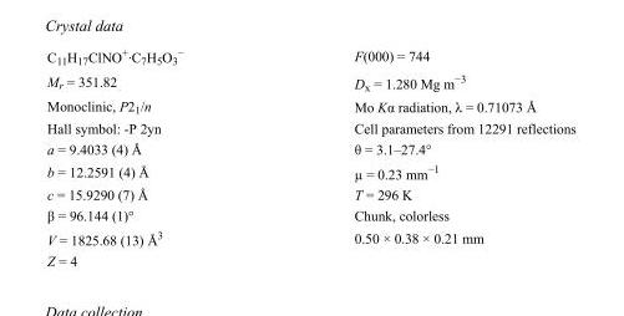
<table><tbody><tr><td>C<sub>11</sub>H<sub>17</sub>ClNO<sup>+</sup>·C<sub>7</sub>H<sub>5</sub>O<sub>3</sub> <sup>−</sup></td><td>F(000) = 744</td></tr><tr><td>M<sub>r</sub> = 351.82</td><td>D<sub>x</sub> = 1.280 Mg m<sup>−3</sup></td></tr><tr><td>Monoclinic, P2<sub>1</sub>/n</td><td>Mo Kα radiation, λ = 0.71073 Å</td></tr><tr><td>Hall symbol: -P 2yn</td><td>Cell parameters from 12291 reflections</td></tr><tr><td>a = 9.4033 (4) Å</td><td>θ = 3.1–27.4°</td></tr><tr><td>b = 12.2591 (4) Å</td><td>µ = 0.23 mm<sup>−1</sup></td></tr><tr><td>c = 15.9290 (7) Å</td><td>T = 296 K</td></tr><tr><td>β = 96.144 (1)°</td><td>Chunk, colorless</td></tr><tr><td>V = 1825.68 (13) Å<sup>3</sup></td><td>0.50 × 0.38 × 0.21 mm</td></tr><tr><td>Z = 4</td><td></td></tr></tbody></table>